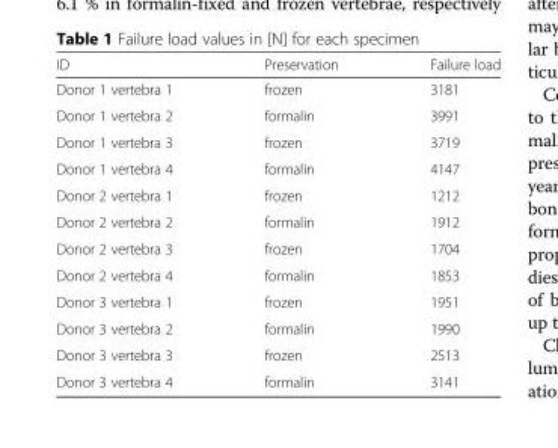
<table><thead><tr><td>ID</td><td>Preservation</td><td>Failure load</td></tr></thead><tbody><tr><td>Donor 1 vertebra 1</td><td>frozen</td><td>3181</td></tr><tr><td>Donor 1 vertebra 2</td><td>formalin</td><td>3991</td></tr><tr><td>Donor 1 vertebra 3</td><td>frozen</td><td>3719</td></tr><tr><td>Donor 1 vertebra 4</td><td>formalin</td><td>4147</td></tr><tr><td>Donor 2 vertebra 1</td><td>frozen</td><td>1212</td></tr><tr><td>Donor 2 vertebra 2</td><td>formalin</td><td>1912</td></tr><tr><td>Donor 2 vertebra 3</td><td>frozen</td><td>1704</td></tr><tr><td>Donor 2 vertebra 4</td><td>formalin</td><td>1853</td></tr><tr><td>Donor 3 vertebra 1</td><td>frozen</td><td>1951</td></tr><tr><td>Donor 3 vertebra 2</td><td>formalin</td><td>1990</td></tr><tr><td>Donor 3 vertebra 3</td><td>frozen</td><td>2513</td></tr><tr><td>Donor 3 vertebra 4</td><td>formalin</td><td>3141</td></tr></tbody></table>